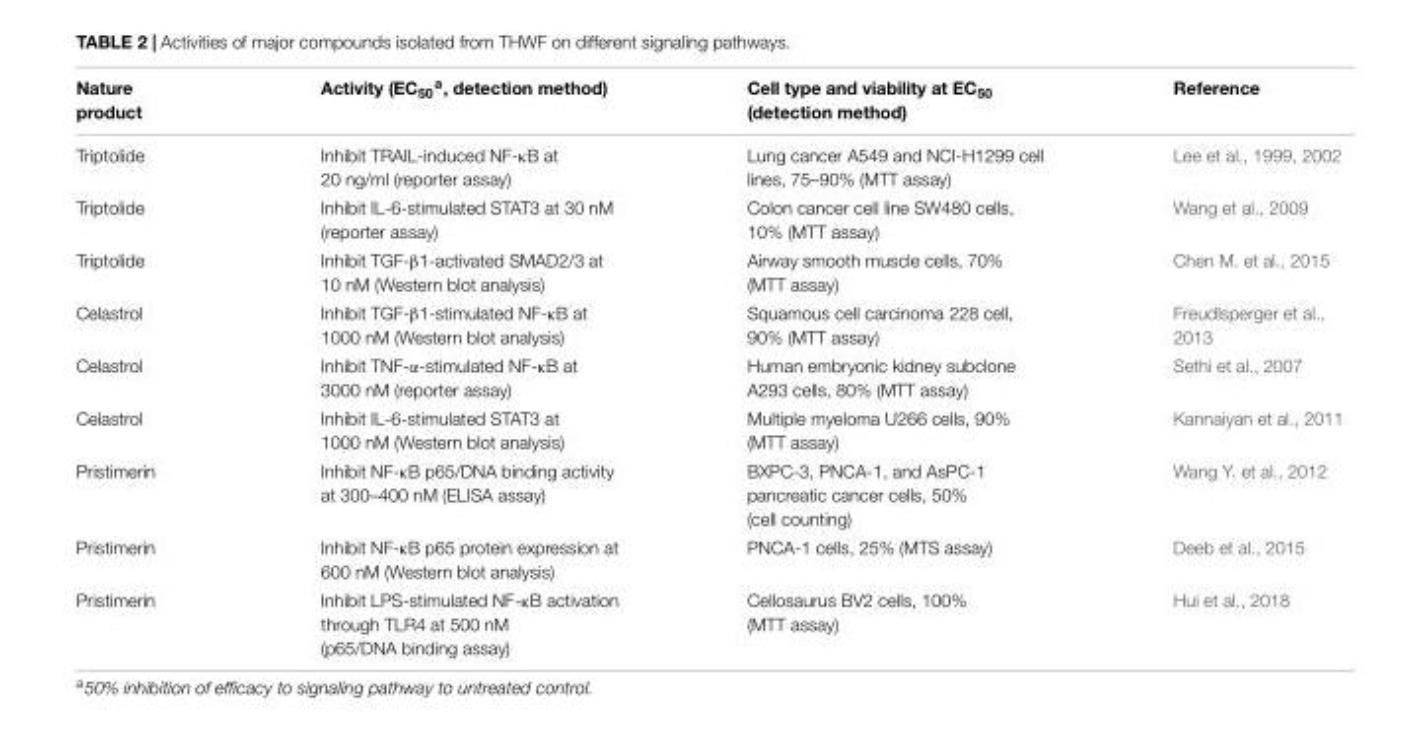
<table><thead><tr><td>Nature product</td><td>Activity (EC<sub>50</sub><sup>a</sup>, detection method)</td><td>Cell type and viability at EC<sub>50</sub> (detection method)</td><td>Reference</td></tr></thead><tbody><tr><td>Triptolide</td><td>Inhibit TRAIL-induced NF-κB at 20 ng/ml (reporter assay)</td><td>Lung cancer A549 and NCI-H1299 cell lines, 75–90% (MTT assay)</td><td>Lee et al., 1999, 2002</td></tr><tr><td>Triptolide</td><td>Inhibit IL-6-stimulated STAT3 at 30 nM (reporter assay)</td><td>Colon cancer cell line SW480 cells, 10% (MTT assay)</td><td>Wang et al., 2009</td></tr><tr><td>Triptolide</td><td>Inhibit TGF-β1-activated SMAD2/3 at 10 nM (Western blot analysis)</td><td>Airway smooth muscle cells, 70% (MTT assay)</td><td>Chen M. et al., 2015</td></tr><tr><td>Celastrol</td><td>Inhibit TGF-β1-stimulated NF-κB at 1000 nM (Western blot analysis)</td><td>Squamous cell carcinoma 228 cell, 90% (MTT assay)</td><td>Freudlsperger et al., 2013</td></tr><tr><td>Celastrol</td><td>Inhibit TNF-α-stimulated NF-κB at 3000 nM (reporter assay)</td><td>Human embryonic kidney subclone A293 cells, 80% (MTT assay)</td><td>Sethi et al., 2007</td></tr><tr><td>Celastrol</td><td>Inhibit IL-6-stimulated STAT3 at 1000 nM (Western blot analysis)</td><td>Multiple myeloma U266 cells, 90% (MTT assay)</td><td>Kannaiyan et al., 2011</td></tr><tr><td>Pristimerin</td><td>Inhibit NF-κB p65/DNA binding activity at 300–400 nM (ELISA assay)</td><td>BXPC-3, PNCA-1, and AsPC-1 pancreatic cancer cells, 50% (cell counting)</td><td>Wang Y. et al., 2012</td></tr><tr><td>Pristimerin</td><td>Inhibit NF-κB p65 protein expression at 600 nM (Western blot analysis)</td><td>PNCA-1 cells, 25% (MTS assay)</td><td>Deeb et al., 2015</td></tr><tr><td>Pristimerin</td><td>Inhibit LPS-stimulated NF-κB activation through TLR4 at 500 nM (p65/DNA binding assay)</td><td>Cellosaurus BV2 cells, 100% (MTT assay)</td><td>Hui et al., 2018</td></tr></tbody></table>